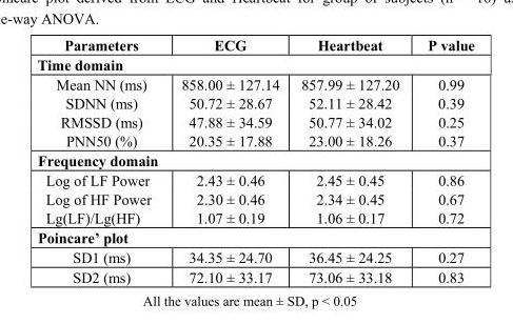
<table><thead><tr><td>Parameters</td><td>ECG</td><td>Heartbeat</td><td>P value</td></tr></thead><tbody><tr><td colspan="4">Time domain</td></tr><tr><td>Mean NN (ms)</td><td>858.00 ± 127.14</td><td>857.99 ± 127.20</td><td>0.99</td></tr><tr><td>SDNN (ms)</td><td>50.72 ± 28.67</td><td>52.11 ± 28.42</td><td>0.39</td></tr><tr><td>RMSSD (ms)</td><td>47.88 ± 34.59</td><td>50.77 ± 34.02</td><td>0.25</td></tr><tr><td>PNN50 (%)</td><td>20.35 ± 17.88</td><td>23.00 ± 18.26</td><td>0.37</td></tr><tr><td colspan="4">Frequency domain</td></tr><tr><td>Log of LF Power</td><td>2.43 ± 0.46</td><td>2.45 ± 0.45</td><td>0.86</td></tr><tr><td>Log of HF Power</td><td>2.30 ± 0.46</td><td>2.34 ± 0.45</td><td>0.67</td></tr><tr><td>Lg(LF)/Lg(HF)</td><td>1.07 ± 0.19</td><td>1.06 ± 0.17</td><td>0.72</td></tr><tr><td colspan="4">Poincare’ plot</td></tr><tr><td>SD1 (ms)</td><td>34.35 ± 24.70</td><td>36.45 ± 24.25</td><td>0.27</td></tr><tr><td>SD2 (ms)</td><td>72.10 ± 33.17</td><td>73.06 ± 33.18</td><td>0.83</td></tr></tbody></table>